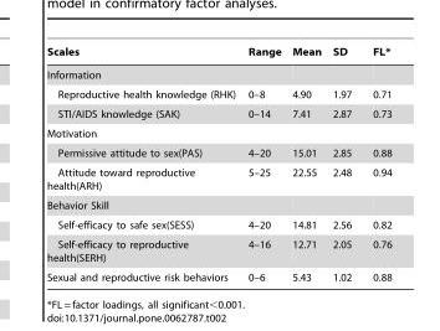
<table><thead><tr><td>Scales</td><td>Range</td><td>Mean</td><td>SD</td><td>FL*</td></tr></thead><tbody><tr><td colspan="5">Information</td></tr><tr><td>Reproductive health knowledge (RHK)</td><td>0–8</td><td>4.90</td><td>1.97</td><td>0.71</td></tr><tr><td>STI/AIDS knowledge (SAK)</td><td>0–14</td><td>7.41</td><td>2.87</td><td>0.73</td></tr><tr><td colspan="5">Motivation</td></tr><tr><td>Permissive attitude to sex(PAS)</td><td>4–20</td><td>15.01</td><td>2.85</td><td>0.88</td></tr><tr><td>Attitude toward reproductive health(ARH)</td><td>5–25</td><td>22.55</td><td>2.48</td><td>0.94</td></tr><tr><td colspan="5">Behavior Skill</td></tr><tr><td>Self-efficacy to safe sex(SESS)</td><td>4–20</td><td>14.81</td><td>2.56</td><td>0.82</td></tr><tr><td>Self-efficacy to reproductive health(SERH)</td><td>4–16</td><td>12.71</td><td>2.05</td><td>0.76</td></tr><tr><td>Sexual and reproductive risk behaviors</td><td>0–6</td><td>5.43</td><td>1.02</td><td>0.88</td></tr></tbody></table>